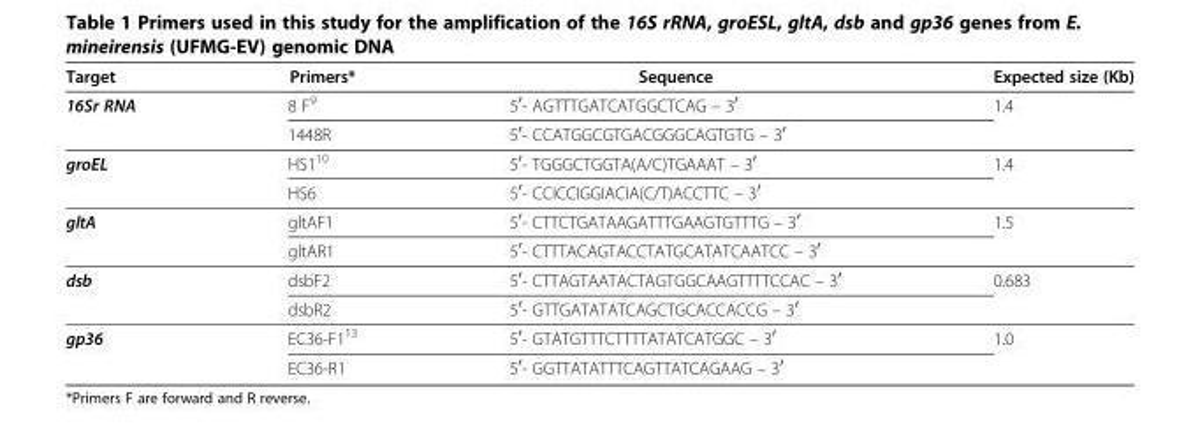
<table><thead><tr><td>Target</td><td>Primers*</td><td>Sequence</td><td>Expected size (Kb)</td></tr></thead><tbody><tr><td rowspan="2">16Sr RNA</td><td>8 F<sup>9</sup></td><td>5<sup>′</sup>- AGTTTGATCATGGCTCAG – 3<sup>′</sup></td><td rowspan="2">1.4</td></tr><tr><td>1448R</td><td>5<sup>′</sup>- CCATGGCGTGACGGGCAGTGTG – 3<sup>′</sup></td></tr><tr><td rowspan="2">groEL</td><td>HS1<sup>10</sup></td><td>5<sup>′</sup>- TGGGCTGGTA(A/C)TGAAAT – 3<sup>′</sup></td><td rowspan="2">1.4</td></tr><tr><td>HS6</td><td>5<sup>′</sup>- CCICCIGGIACIA(C/T)ACCTTC – 3<sup>′</sup></td></tr><tr><td rowspan="2">gltA</td><td>gltAF1</td><td>5<sup>′</sup>- CTTCTGATAAGATTTGAAGTGTTTG – 3<sup>′</sup></td><td rowspan="2">1.5</td></tr><tr><td>gltAR1</td><td>5<sup>′</sup>- CTTTACAGTACCTATGCATATCAATCC – 3<sup>′</sup></td></tr><tr><td rowspan="2">dsb</td><td>dsbF2</td><td>5<sup>′</sup>- CTTAGTAATACTAGTGGCAAGTTTTCCAC – 3<sup>′</sup></td><td rowspan="2">0.683</td></tr><tr><td>dsbR2</td><td>5<sup>′</sup>- GTTGATATATCAGCTGCACCACCG – 3<sup>′</sup></td></tr><tr><td rowspan="2">gp36</td><td>EC36-F1<sup>13</sup></td><td>5<sup>′</sup>- GTATGTTTCTTTTATATCATGGC – 3<sup>′</sup></td><td rowspan="2">1.0</td></tr><tr><td>EC36-R1</td><td>5<sup>′</sup>- GGTTATATTTCAGTTATCAGAAG – 3<sup>′</sup></td></tr></tbody></table>